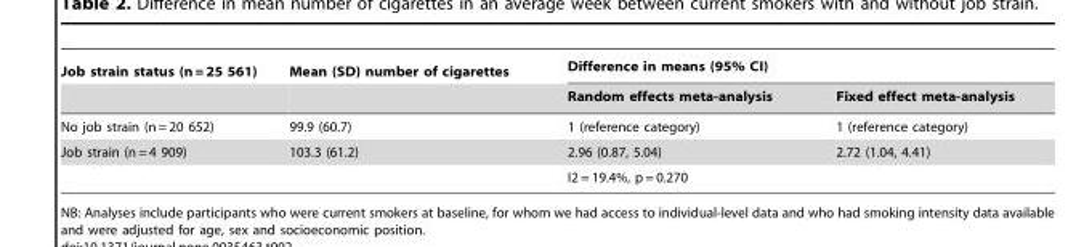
<table><thead><tr><td rowspan="2">Job strain status (n = 25 561)</td><td rowspan="2">Mean (SD) number of cigarettes</td><td colspan="2">Difference in means (95% CI)</td></tr><tr><td>Random effects meta-analysis</td><td>Fixed effect meta-analysis</td></tr></thead><tbody><tr><td>No job strain (n = 20 652)</td><td>99.9 (60.7)</td><td>1 (reference category)</td><td>1 (reference category)</td></tr><tr><td rowspan="2">Job strain (n = 4 909)</td><td>103.3 (61.2)</td><td>2.96 (0.87, 5.04)</td><td>2.72 (1.04, 4.41)</td></tr><tr><td></td><td>I2 = 19.4%, p = 0.270</td><td></td></tr></tbody></table>